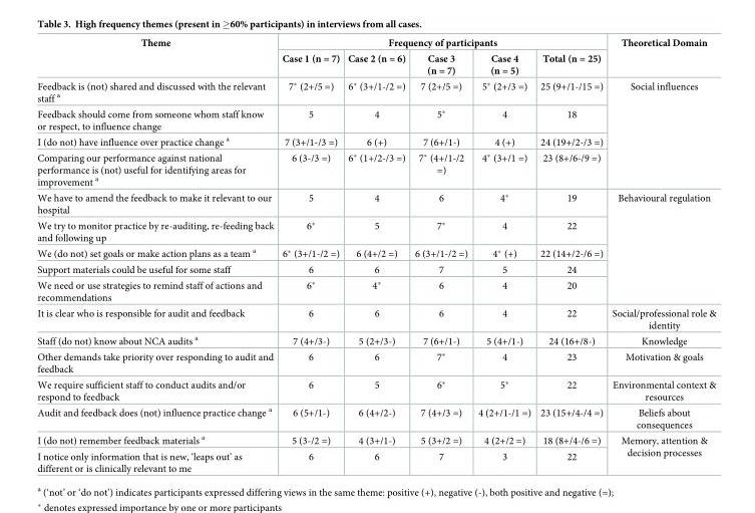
<table><thead><tr><td rowspan="2">Theme</td><td colspan="5">Frequency of participants</td><td rowspan="2">Theoretical Domain</td></tr><tr><td>Case 1 (n = 7)</td><td>Case 2 (n = 6)</td><td>Case 3 (n = 7)</td><td>Case 4 (n = 5)</td><td>Total (n = 25)</td></tr></thead><tbody><tr><td>Feedback is (not) shared and discussed with the relevant staff <sup>a</sup></td><td>7* (2+/5 =)</td><td>6* (3+/1-/2 =)</td><td>7 (2+/5 =)</td><td>5* (2+/3 =)</td><td>25 (9+/1-/15 =)</td><td rowspan="4">Social influences</td></tr><tr><td>Feedback should come from someone whom staff know or respect, to influence change</td><td>5</td><td>4</td><td>5*</td><td>4</td><td>18</td></tr><tr><td>I (do not) have influence over practice change <sup>a</sup></td><td>7 (3+/1-/3 =)</td><td>6 (+)</td><td>7 (6+/1-)</td><td>4 (+)</td><td>24 (19+/2-/3 =)</td></tr><tr><td>Comparing our performance against national performance is (not) useful for identifying areas for improvement <sup>a</sup></td><td>6 (3-/3 =)</td><td>6* (1+/2-/3 =)</td><td>7* (4+/1-/2 =)</td><td>4* (3+/1 =)</td><td>23 (8+/6-/9 =)</td></tr><tr><td>We have to amend the feedback to make it relevant to our hospital</td><td>5</td><td>4</td><td>6</td><td>4*</td><td>19</td><td rowspan="5">Behavioural regulation</td></tr><tr><td>We try to monitor practice by re-auditing, re-feeding back and following up</td><td>6*</td><td>5</td><td>7*</td><td>4</td><td>22</td></tr><tr><td>We (do not) set goals or make action plans as a team <sup>a</sup></td><td>6* (3+/1-/2 =)</td><td>6 (4+/2 =)</td><td>6 (3+/1-/2 =)</td><td>4* (+)</td><td>22 (14+/2-/6 =)</td></tr><tr><td>Support materials could be useful for some staff</td><td>6</td><td>6</td><td>7</td><td>5</td><td>24</td></tr><tr><td>We need or use strategies to remind staff of actions and recommendations</td><td>6*</td><td>4*</td><td>6</td><td>4</td><td>20</td></tr><tr><td>It is clear who is responsible for audit and feedback</td><td>6</td><td>6</td><td>6</td><td>4</td><td>22</td><td>Social/professional role &amp; identity</td></tr><tr><td>Staff (do not) know about NCA audits <sup>a</sup></td><td>7 (4+/3-)</td><td>5 (2+/3-)</td><td>7 (6+/1-)</td><td>5 (4+/1-)</td><td>24 (16+/8-)</td><td>Knowledge</td></tr><tr><td>Other demands take priority over responding to audit and feedback</td><td>6</td><td>6</td><td>7*</td><td>4</td><td>23</td><td>Motivation &amp; goals</td></tr><tr><td>We require sufficient staff to conduct audits and/or respond to feedback</td><td>6</td><td>5</td><td>6*</td><td>5*</td><td>22</td><td>Environmental context &amp; resources</td></tr><tr><td>Audit and feedback does (not) influence practice change <sup>a</sup></td><td>6 (5+/1-)</td><td>6 (4+/2-)</td><td>7 (4+/3 =)</td><td>4 (2+/1-/1 =)</td><td>23 (15+/4-/4 =)</td><td>Beliefs about consequences</td></tr><tr><td>I (do not) remember feedback materials <sup>a</sup></td><td>5 (3-/2 =)</td><td>4 (3+/1-)</td><td>5 (3+/2 =)</td><td>4 (2+/2 =)</td><td>18 (8+/4-/6 =)</td><td rowspan="2">Memory, attention &amp; decision processes</td></tr><tr><td>I notice only information that is new, ‘leaps out’ as different or is clinically relevant to me</td><td>6</td><td>6</td><td>7</td><td>3</td><td>22</td></tr></tbody></table>